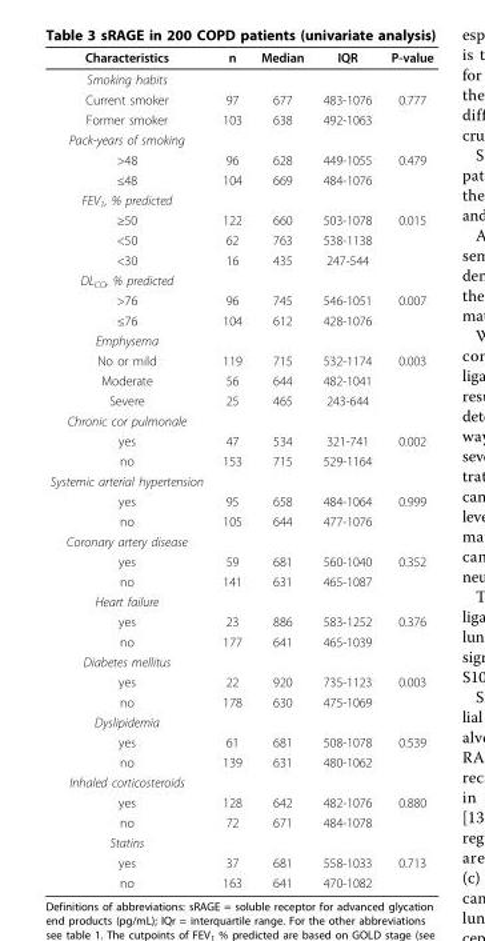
<table><thead><tr><td>Characteristics</td><td>n</td><td>Median</td><td>IQR</td><td>P-value</td></tr></thead><tbody><tr><td colspan="5">Smoking habits</td></tr><tr><td>Current smoker</td><td>97</td><td>677</td><td>483-1076</td><td>0.777</td></tr><tr><td>Former smoker</td><td>103</td><td>638</td><td>492-1063</td><td></td></tr><tr><td colspan="5">Pack-years of smoking</td></tr><tr><td>&gt;48</td><td>96</td><td>628</td><td>449-1055</td><td>0.479</td></tr><tr><td>≤48</td><td>104</td><td>669</td><td>484-1076</td><td></td></tr><tr><td colspan="5">FEV<sub>1</sub>, % predicted</td></tr><tr><td>≥50</td><td>122</td><td>660</td><td>503-1078</td><td>0.015</td></tr><tr><td>&lt;50</td><td>62</td><td>763</td><td>538-1138</td><td></td></tr><tr><td>&lt;30</td><td>16</td><td>435</td><td>247-544</td><td></td></tr><tr><td colspan="5">DL<sub>CO</sub>, % predicted</td></tr><tr><td>&gt;76</td><td>96</td><td>745</td><td>546-1051</td><td>0.007</td></tr><tr><td>≤76</td><td>104</td><td>612</td><td>428-1076</td><td></td></tr><tr><td colspan="5">Emphysema</td></tr><tr><td>No or mild</td><td>119</td><td>715</td><td>532-1174</td><td>0.003</td></tr><tr><td>Moderate</td><td>56</td><td>644</td><td>482-1041</td><td></td></tr><tr><td>Severe</td><td>25</td><td>465</td><td>243-644</td><td></td></tr><tr><td colspan="5">Chronic cor pulmonale</td></tr><tr><td>yes</td><td>47</td><td>534</td><td>321-741</td><td>0.002</td></tr><tr><td>no</td><td>153</td><td>715</td><td>529-1164</td><td></td></tr><tr><td colspan="5">Systemic arterial hypertension</td></tr><tr><td>yes</td><td>95</td><td>658</td><td>484-1064</td><td>0.999</td></tr><tr><td>no</td><td>105</td><td>644</td><td>477-1076</td><td></td></tr><tr><td colspan="5">Coronary artery disease</td></tr><tr><td>yes</td><td>59</td><td>681</td><td>560-1040</td><td>0.352</td></tr><tr><td>no</td><td>141</td><td>631</td><td>465-1087</td><td></td></tr><tr><td colspan="5">Heart failure</td></tr><tr><td>yes</td><td>23</td><td>886</td><td>583-1252</td><td>0.376</td></tr><tr><td>no</td><td>177</td><td>641</td><td>465-1039</td><td></td></tr><tr><td colspan="5">Diabetes mellitus</td></tr><tr><td>yes</td><td>22</td><td>920</td><td>735-1123</td><td>0.003</td></tr><tr><td>no</td><td>178</td><td>630</td><td>475-1069</td><td></td></tr><tr><td colspan="5">Dyslipidemia</td></tr><tr><td>yes</td><td>61</td><td>681</td><td>508-1078</td><td>0.539</td></tr><tr><td>no</td><td>139</td><td>631</td><td>480-1062</td><td></td></tr><tr><td colspan="5">Inhaled corticosteroids</td></tr><tr><td>yes</td><td>128</td><td>642</td><td>482-1076</td><td>0.880</td></tr><tr><td>no</td><td>72</td><td>671</td><td>484-1078</td><td></td></tr><tr><td colspan="5">Statins</td></tr><tr><td>yes</td><td>37</td><td>681</td><td>558-1033</td><td>0.713</td></tr><tr><td>no</td><td>163</td><td>641</td><td>470-1082</td><td></td></tr></tbody></table>